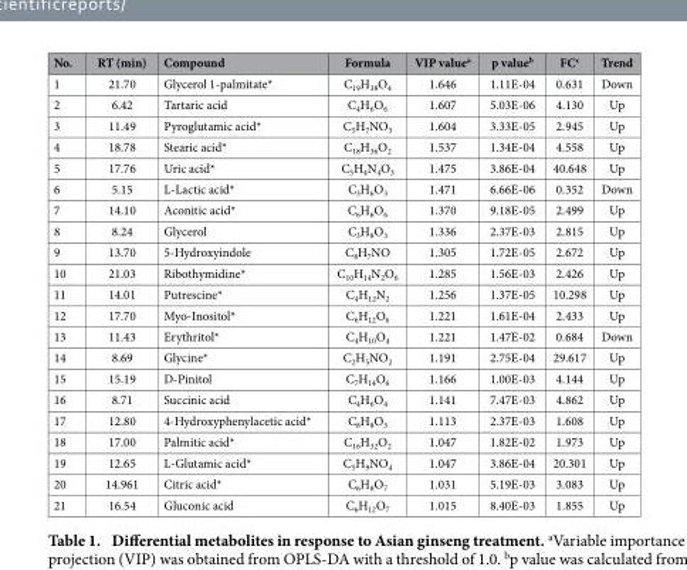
<table><thead><tr><td>No.</td><td>RT (min)</td><td>Compound</td><td>Formula</td><td>VIP value<sup>a</sup></td><td>p value<sup>b</sup></td><td>FC<sup>c</sup></td><td>Trend</td></tr></thead><tbody><tr><td>1</td><td>21.70</td><td>Glycerol 1-palmitate*</td><td>C<sub>19</sub>H<sub>38</sub>O<sub>4</sub></td><td>1.646</td><td>1.11E-04</td><td>0.631</td><td>Down</td></tr><tr><td>2</td><td>6.42</td><td>Tartaric acid</td><td>C<sub>4</sub>H<sub>6</sub>O<sub>6</sub></td><td>1.607</td><td>5.03E-06</td><td>4.130</td><td>Up</td></tr><tr><td>3</td><td>11.49</td><td>Pyroglutamic acid*</td><td>C<sub>5</sub>H<sub>7</sub>NO<sub>3</sub></td><td>1.604</td><td>3.33E-05</td><td>2.945</td><td>Up</td></tr><tr><td>4</td><td>18.78</td><td>Stearic acid*</td><td>C<sub>18</sub>H<sub>36</sub>O<sub>2</sub></td><td>1.537</td><td>1.34E-04</td><td>4.558</td><td>Up</td></tr><tr><td>5</td><td>17.76</td><td>Uric acid*</td><td>C<sub>5</sub>H<sub>4</sub>N<sub>4</sub>O<sub>3</sub></td><td>1.475</td><td>3.86E-04</td><td>40.648</td><td>Up</td></tr><tr><td>6</td><td>5.15</td><td>L-Lactic acid*</td><td>C<sub>3</sub>H<sub>6</sub>O<sub>3</sub></td><td>1.471</td><td>6.66E-06</td><td>0.352</td><td>Down</td></tr><tr><td>7</td><td>14.10</td><td>Aconitic acid*</td><td>C<sub>6</sub>H<sub>6</sub>O<sub>6</sub></td><td>1.370</td><td>9.18E-05</td><td>2.499</td><td>Up</td></tr><tr><td>8</td><td>8.24</td><td>Glycerol</td><td>C<sub>3</sub>H<sub>8</sub>O<sub>3</sub></td><td>1.336</td><td>2.37E-03</td><td>2.815</td><td>Up</td></tr><tr><td>9</td><td>13.70</td><td>5-Hydroxyindole</td><td>C<sub>8</sub>H<sub>7</sub>NO</td><td>1.305</td><td>1.72E-05</td><td>2.672</td><td>Up</td></tr><tr><td>10</td><td>21.03</td><td>Ribothymidine*</td><td>C<sub>10</sub>H<sub>14</sub>N<sub>2</sub>O<sub>6</sub></td><td>1.285</td><td>1.56E-03</td><td>2.426</td><td>Up</td></tr><tr><td>11</td><td>14.01</td><td>Putrescine*</td><td>C<sub>4</sub>H<sub>12</sub>N<sub>2</sub></td><td>1.256</td><td>1.37E-05</td><td>10.298</td><td>Up</td></tr><tr><td>12</td><td>17.70</td><td>Myo-Inositol*</td><td>C<sub>6</sub>H<sub>12</sub>O<sub>6</sub></td><td>1.221</td><td>1.61E-04</td><td>2.433</td><td>Up</td></tr><tr><td>13</td><td>11.43</td><td>Erythritol*</td><td>C<sub>4</sub>H<sub>10</sub>O<sub>4</sub></td><td>1.221</td><td>1.47E-02</td><td>0.684</td><td>Down</td></tr><tr><td>14</td><td>8.69</td><td>Glycine*</td><td>C<sub>2</sub>H<sub>5</sub>NO<sub>2</sub></td><td>1.191</td><td>2.75E-04</td><td>29.617</td><td>Up</td></tr><tr><td>15</td><td>15.19</td><td>D-Pinitol</td><td>C<sub>7</sub>H<sub>14</sub>O<sub>6</sub></td><td>1.166</td><td>1.00E-03</td><td>4.144</td><td>Up</td></tr><tr><td>16</td><td>8.71</td><td>Succinic acid</td><td>C<sub>4</sub>H<sub>6</sub>O<sub>4</sub></td><td>1.141</td><td>7.47E-03</td><td>4.862</td><td>Up</td></tr><tr><td>17</td><td>12.80</td><td>4-Hydroxyphenylacetic acid*</td><td>C<sub>8</sub>H<sub>8</sub>O<sub>3</sub></td><td>1.113</td><td>2.37E-03</td><td>1.608</td><td>Up</td></tr><tr><td>18</td><td>17.00</td><td>Palmitic acid*</td><td>C<sub>16</sub>H<sub>32</sub>O<sub>2</sub></td><td>1.047</td><td>1.82E-02</td><td>1.973</td><td>Up</td></tr><tr><td>19</td><td>12.65</td><td>L-Glutamic acid*</td><td>C<sub>5</sub>H<sub>9</sub>NO<sub>4</sub></td><td>1.047</td><td>3.86E-04</td><td>20.301</td><td>Up</td></tr><tr><td>20</td><td>14.961</td><td>Citric acid*</td><td>C<sub>6</sub>H<sub>8</sub>O<sub>7</sub></td><td>1.031</td><td>5.19E-03</td><td>3.083</td><td>Up</td></tr><tr><td>21</td><td>16.54</td><td>Gluconic acid</td><td>C<sub>6</sub>H<sub>12</sub>O<sub>7</sub></td><td>1.015</td><td>8.40E-03</td><td>1.855</td><td>Up</td></tr></tbody></table>